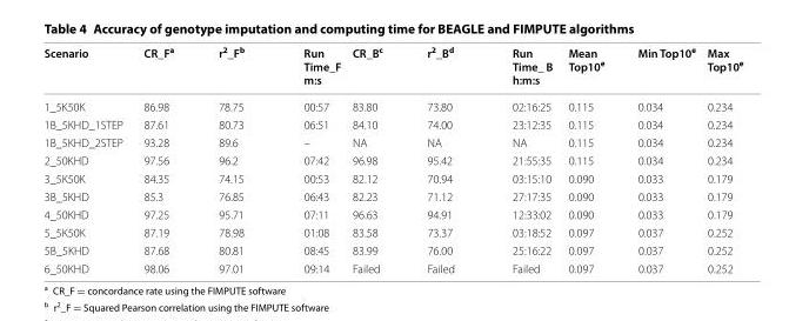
<table><thead><tr><td>Scenario</td><td>CR_F<sup>a</sup></td><td>r<sup>2</sup>_F<sup>b</sup></td><td>Run Time_F m:s</td><td>CR_B<sup>c</sup></td><td>r<sup>2</sup>_B<sup>d</sup></td><td>Run Time_ B h:m:s</td><td>Mean Top10<sup>e</sup></td><td>Min Top10<sup>e</sup></td><td>Max Top10<sup>e</sup></td></tr></thead><tbody><tr><td>1_5K50K</td><td>86.98</td><td>78.75</td><td>00:57</td><td>83.80</td><td>73.80</td><td>02:16:25</td><td>0.115</td><td>0.034</td><td>0.234</td></tr><tr><td>1B_5KHD_1STEP</td><td>87.61</td><td>80.73</td><td>06:51</td><td>84.10</td><td>74.00</td><td>23:12:35</td><td>0.115</td><td>0.034</td><td>0.234</td></tr><tr><td>1B_5KHD_2STEP</td><td>93.28</td><td>89.6</td><td>–</td><td>NA</td><td>NA</td><td>NA</td><td>0.115</td><td>0.034</td><td>0.234</td></tr><tr><td>2_50KHD</td><td>97.56</td><td>96.2</td><td>07:42</td><td>96.98</td><td>95.42</td><td>21:55:35</td><td>0.115</td><td>0.034</td><td>0.234</td></tr><tr><td>3_5K50K</td><td>84.35</td><td>74.15</td><td>00:53</td><td>82.12</td><td>70.94</td><td>03:15:10</td><td>0.090</td><td>0.033</td><td>0.179</td></tr><tr><td>3B_5KHD</td><td>85.3</td><td>76.85</td><td>06:43</td><td>82.23</td><td>71.12</td><td>27:17:35</td><td>0.090</td><td>0.033</td><td>0.179</td></tr><tr><td>4_50KHD</td><td>97.25</td><td>95.71</td><td>07:11</td><td>96.63</td><td>94.91</td><td>12:33:02</td><td>0.090</td><td>0.033</td><td>0.179</td></tr><tr><td>5_5K50K</td><td>87.19</td><td>78.98</td><td>01:08</td><td>83.58</td><td>73.37</td><td>03:18:52</td><td>0.097</td><td>0.037</td><td>0.252</td></tr><tr><td>5B_5KHD</td><td>87.68</td><td>80.81</td><td>08:45</td><td>83.99</td><td>76.00</td><td>25:16:22</td><td>0.097</td><td>0.037</td><td>0.252</td></tr><tr><td>6_50KHD</td><td>98.06</td><td>97.01</td><td>09:14</td><td>Failed</td><td>Failed</td><td>Failed</td><td>0.097</td><td>0.037</td><td>0.252</td></tr></tbody></table>